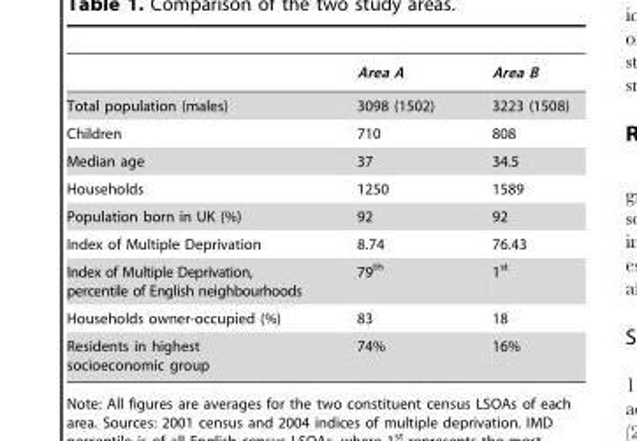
<table><thead><tr><td></td><td>Area A</td><td>Area B</td></tr></thead><tbody><tr><td>Total population (males)</td><td>3098 (1502)</td><td>3223 (1508)</td></tr><tr><td>Children</td><td>710</td><td>808</td></tr><tr><td>Median age</td><td>37</td><td>34.5</td></tr><tr><td>Households</td><td>1250</td><td>1589</td></tr><tr><td>Population born in UK (%)</td><td>92</td><td>92</td></tr><tr><td>Index of Multiple Deprivation</td><td>8.74</td><td>76.43</td></tr><tr><td>Index of Multiple Deprivation, percentile of English neighbourhoods</td><td>79<sup>th</sup></td><td>1<sup>st</sup></td></tr><tr><td>Households owner-occupied (%)</td><td>83</td><td>18</td></tr><tr><td>Residents in highest socioeconomic group</td><td>74%</td><td>16%</td></tr></tbody></table>